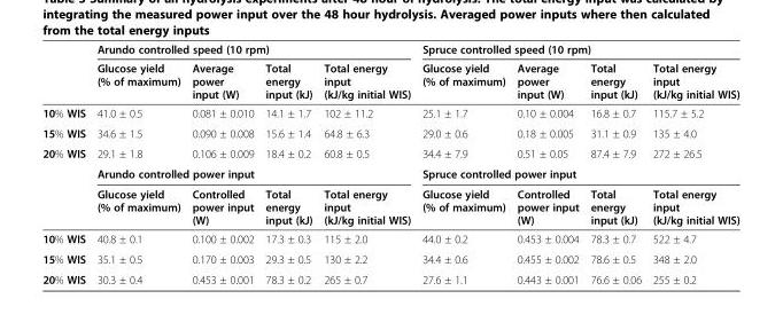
<table><thead><tr><td rowspan="2"></td><td colspan="4">Arundo controlled speed (10 rpm)</td><td colspan="4">Spruce controlled speed (10 rpm)</td></tr><tr><td>Glucose yield (% of maximum)</td><td>Average power input (W)</td><td>Total energy input (kJ)</td><td>Total energy input (kJ/kg initial WIS)</td><td>Glucose yield (% of maximum)</td><td>Average power input (W)</td><td>Total energy input (kJ)</td><td>Total energy input (kJ/kg initial WIS)</td></tr></thead><tbody><tr><td>10% WIS</td><td>41.0 ± 0.5</td><td>0.081 ± 0.010</td><td>14.1 ± 1.7</td><td>102 ± 11.2</td><td>25.1 ± 1.7</td><td>0.10 ± 0.004</td><td>16.8 ± 0.7</td><td>115.7 ± 5.2</td></tr><tr><td>15% WIS</td><td>34.6 ± 1.5</td><td>0.090 ± 0.008</td><td>15.6 ± 1.4</td><td>64.8 ± 6.3</td><td>29.0 ± 0.6</td><td>0.18 ± 0.005</td><td>31.1 ± 0.9</td><td>135 ± 4.0</td></tr><tr><td rowspan="3">20% WIS</td><td>29.1 ± 1.8</td><td>0.106 ± 0.009</td><td>18.4 ± 0.2</td><td>60.8 ± 0.5</td><td>34.4 ± 7.9</td><td>0.51 ± 0.05</td><td>87.4 ± 7.9</td><td>272 ± 26.5</td></tr><tr><td colspan="4">Arundo controlled power input</td><td colspan="4">Spruce controlled power input</td></tr><tr><td>Glucose yield (% of maximum)</td><td>Controlled power input (W)</td><td>Total energy input (kJ)</td><td>Total energy input (kJ/kg initial WIS)</td><td>Glucose yield (% of maximum)</td><td>Controlled power input (W)</td><td>Total energy input (kJ)</td><td>Total energy input (kJ/kg initial WIS)</td></tr><tr><td>10% WIS</td><td>40.8 ± 0.1</td><td>0.100 ± 0.002</td><td>17.3 ± 0.3</td><td>115 ± 2.0</td><td>44.0 ± 0.2</td><td>0.453 ± 0.004</td><td>78.3 ± 0.7</td><td>522 ± 4.7</td></tr><tr><td>15% WIS</td><td>35.1 ± 0.5</td><td>0.170 ± 0.003</td><td>29.3 ± 0.5</td><td>130 ± 2.2</td><td>34.4 ± 0.6</td><td>0.455 ± 0.002</td><td>78.6 ± 0.5</td><td>348 ± 2.0</td></tr><tr><td>20% WIS</td><td>30.3 ± 0.4</td><td>0.453 ± 0.001</td><td>78.3 ± 0.2</td><td>265 ± 0.7</td><td>27.6 ± 1.1</td><td>0.443 ± 0.001</td><td>76.6 ± 0.06</td><td>255 ± 0.2</td></tr></tbody></table>